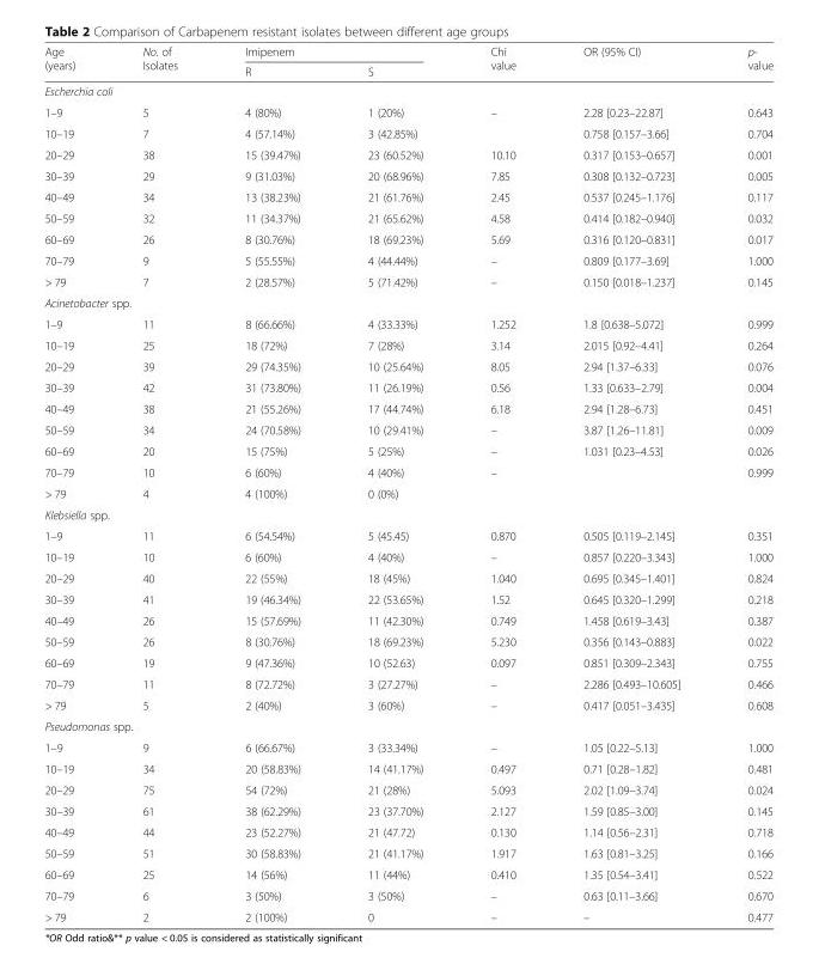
<table><thead><tr><td rowspan="2">Age (years)</td><td rowspan="2">No. of Isolates</td><td colspan="2">Imipenem</td><td rowspan="2">Chi value</td><td rowspan="2">OR (95% CI)</td><td rowspan="2">p- value</td></tr><tr><td>R</td><td>S</td></tr></thead><tbody><tr><td colspan="7">Escherchia coli</td></tr><tr><td>1–9</td><td>5</td><td>4 (80%)</td><td>1 (20%)</td><td>–</td><td>2.28 [0.23–22.87]</td><td>0.643</td></tr><tr><td>10–19</td><td>7</td><td>4 (57.14%)</td><td>3 (42.85%)</td><td></td><td>0.758 [0.157–3.66]</td><td>0.704</td></tr><tr><td>20–29</td><td>38</td><td>15 (39.47%)</td><td>23 (60.52%)</td><td>10.10</td><td>0.317 [0.153–0.657]</td><td>0.001</td></tr><tr><td>30–39</td><td>29</td><td>9 (31.03%)</td><td>20 (68.96%)</td><td>7.85</td><td>0.308 [0.132–0.723]</td><td>0.005</td></tr><tr><td>40–49</td><td>34</td><td>13 (38.23%)</td><td>21 (61.76%)</td><td>2.45</td><td>0.537 [0.245–1.176]</td><td>0.117</td></tr><tr><td>50–59</td><td>32</td><td>11 (34.37%)</td><td>21 (65.62%)</td><td>4.58</td><td>0.414 [0.182–0.940]</td><td>0.032</td></tr><tr><td>60–69</td><td>26</td><td>8 (30.76%)</td><td>18 (69.23%)</td><td>5.69</td><td>0.316 [0.120–0.831]</td><td>0.017</td></tr><tr><td>70–79</td><td>9</td><td>5 (55.55%)</td><td>4 (44.44%)</td><td>–</td><td>0.809 [0.177–3.69]</td><td>1.000</td></tr><tr><td>&gt; 79</td><td>7</td><td>2 (28.57%)</td><td>5 (71.42%)</td><td>–</td><td>0.150 [0.018–1.237]</td><td>0.145</td></tr><tr><td colspan="7">Acinetobacter spp.</td></tr><tr><td>1–9</td><td>11</td><td>8 (66.66%)</td><td>4 (33.33%)</td><td>1.252</td><td>1.8 [0.638–5.072]</td><td>0.999</td></tr><tr><td>10–19</td><td>25</td><td>18 (72%)</td><td>7 (28%)</td><td>3.14</td><td>2.015 [0.92–4.41]</td><td>0.264</td></tr><tr><td>20–29</td><td>39</td><td>29 (74.35%)</td><td>10 (25.64%)</td><td>8.05</td><td>2.94 [1.37–6.33]</td><td>0.076</td></tr><tr><td>30–39</td><td>42</td><td>31 (73.80%)</td><td>11 (26.19%)</td><td>0.56</td><td>1.33 [0.633–2.79]</td><td>0.004</td></tr><tr><td>40–49</td><td>38</td><td>21 (55.26%)</td><td>17 (44.74%)</td><td>6.18</td><td>2.94 [1.28–6.73]</td><td>0.451</td></tr><tr><td>50–59</td><td>34</td><td>24 (70.58%)</td><td>10 (29.41%)</td><td>–</td><td>3.87 [1.26–11.81]</td><td>0.009</td></tr><tr><td>60–69</td><td>20</td><td>15 (75%)</td><td>5 (25%)</td><td>–</td><td>1.031 [0.23–4.53]</td><td>0.026</td></tr><tr><td>70–79</td><td>10</td><td>6 (60%)</td><td>4 (40%)</td><td>–</td><td></td><td>0.999</td></tr><tr><td>&gt; 79</td><td>4</td><td>4 (100%)</td><td>0 (0%)</td><td></td><td></td><td></td></tr><tr><td colspan="7">Klebsiella spp.</td></tr><tr><td>1–9</td><td>11</td><td>6 (54.54%)</td><td>5 (45.45)</td><td>0.870</td><td>0.505 [0.119–2.145]</td><td>0.351</td></tr><tr><td>10–19</td><td>10</td><td>6 (60%)</td><td>4 (40%)</td><td>–</td><td>0.857 [0.220–3.343]</td><td>1.000</td></tr><tr><td>20–29</td><td>40</td><td>22 (55%)</td><td>18 (45%)</td><td>1.040</td><td>0.695 [0.345–1.401]</td><td>0.824</td></tr><tr><td>30–39</td><td>41</td><td>19 (46.34%)</td><td>22 (53.65%)</td><td>1.52</td><td>0.645 [0.320–1.299]</td><td>0.218</td></tr><tr><td>40–49</td><td>26</td><td>15 (57.69%)</td><td>11 (42.30%)</td><td>0.749</td><td>1.458 [0.619–3.43]</td><td>0.387</td></tr><tr><td>50–59</td><td>26</td><td>8 (30.76%)</td><td>18 (69.23%)</td><td>5.230</td><td>0.356 [0.143–0.883]</td><td>0.022</td></tr><tr><td>60–69</td><td>19</td><td>9 (47.36%)</td><td>10 (52.63)</td><td>0.097</td><td>0.851 [0.309–2.343]</td><td>0.755</td></tr><tr><td>70–79</td><td>11</td><td>8 (72.72%)</td><td>3 (27.27%)</td><td>–</td><td>2.286 [0.493–10.605]</td><td>0.466</td></tr><tr><td>&gt; 79</td><td>5</td><td>2 (40%)</td><td>3 (60%)</td><td>–</td><td>0.417 [0.051–3.435]</td><td>0.608</td></tr><tr><td colspan="7">Pseudomonas spp.</td></tr><tr><td>1–9</td><td>9</td><td>6 (66.67%)</td><td>3 (33.34%)</td><td>–</td><td>1.05 [0.22–5.13]</td><td>1.000</td></tr><tr><td>10–19</td><td>34</td><td>20 (58.83%)</td><td>14 (41.17%)</td><td>0.497</td><td>0.71 [0.28–1.82]</td><td>0.481</td></tr><tr><td>20–29</td><td>75</td><td>54 (72%)</td><td>21 (28%)</td><td>5.093</td><td>2.02 [1.09–3.74]</td><td>0.024</td></tr><tr><td>30–39</td><td>61</td><td>38 (62.29%)</td><td>23 (37.70%)</td><td>2.127</td><td>1.59 [0.85–3.00]</td><td>0.145</td></tr><tr><td>40–49</td><td>44</td><td>23 (52.27%)</td><td>21 (47.72)</td><td>0.130</td><td>1.14 [0.56–2.31]</td><td>0.718</td></tr><tr><td>50–59</td><td>51</td><td>30 (58.83%)</td><td>21 (41.17%)</td><td>1.917</td><td>1.63 [0.81–3.25]</td><td>0.166</td></tr><tr><td>60–69</td><td>25</td><td>14 (56%)</td><td>11 (44%)</td><td>0.410</td><td>1.35 [0.54–3.41]</td><td>0.522</td></tr><tr><td>70–79</td><td>6</td><td>3 (50%)</td><td>3 (50%)</td><td>–</td><td>0.63 [0.11–3.66]</td><td>0.670</td></tr><tr><td>&gt; 79</td><td>2</td><td>2 (100%)</td><td>0</td><td>–</td><td>–</td><td>0.477</td></tr></tbody></table>